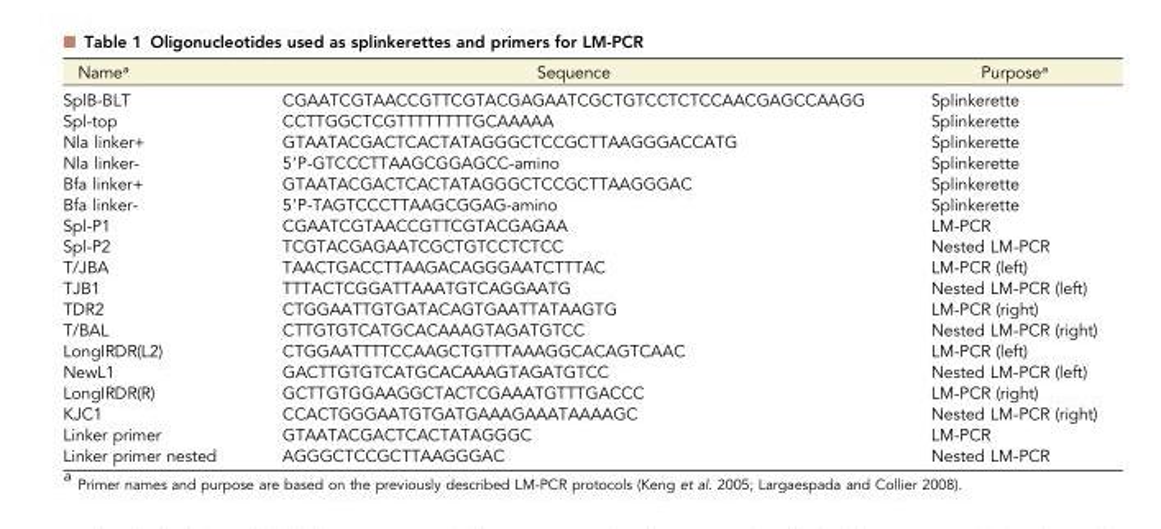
<table><thead><tr><td>Name<sup>a</sup></td><td>Sequence</td><td>Purpose<sup>a</sup></td></tr></thead><tbody><tr><td>SplB-BLT</td><td>CGAATCGTAACCGTTCGTACGAGAATCGCTGTCCTCTCCAACGAGCCAAGG</td><td>Splinkerette</td></tr><tr><td>Spl-top</td><td>CCTTGGCTCGTTTTTTTTGCAAAAA</td><td>Splinkerette</td></tr><tr><td>Nla linker+</td><td>GTAATACGACTCACTATAGGGCTCCGCTTAAGGGACCATG</td><td>Splinkerette</td></tr><tr><td>Nla linker-</td><td>5′P-GTCCCTTAAGCGGAGCC-amino</td><td>Splinkerette</td></tr><tr><td>Bfa linker+</td><td>GTAATACGACTCACTATAGGGCTCCGCTTAAGGGAC</td><td>Splinkerette</td></tr><tr><td>Bfa linker-</td><td>5′P-TAGTCCCTTAAGCGGAG-amino</td><td>Splinkerette</td></tr><tr><td>Spl-P1</td><td>CGAATCGTAACCGTTCGTACGAGAA</td><td>LM-PCR</td></tr><tr><td>Spl-P2</td><td>TCGTACGAGAATCGCTGTCCTCTCC</td><td>Nested LM-PCR</td></tr><tr><td>T/JBA</td><td>TAACTGACCTTAAGACAGGGAATCTTTAC</td><td>LM-PCR (left)</td></tr><tr><td>TJB1</td><td>TTTACTCGGATTAAATGTCAGGAATG</td><td>Nested LM-PCR (left)</td></tr><tr><td>TDR2</td><td>CTGGAATTGTGATACAGTGAATTATAAGTG</td><td>LM-PCR (right)</td></tr><tr><td>T/BAL</td><td>CTTGTGTCATGCACAAAGTAGATGTCC</td><td>Nested LM-PCR (right)</td></tr><tr><td>LongIRDR(L2)</td><td>CTGGAATTTTCCAAGCTGTTTAAAGGCACAGTCAAC</td><td>LM-PCR (left)</td></tr><tr><td>NewL1</td><td>GACTTGTGTCATGCACAAAGTAGATGTCC</td><td>Nested LM-PCR (left)</td></tr><tr><td>LongIRDR(R)</td><td>GCTTGTGGAAGGCTACTCGAAATGTTTGACCC</td><td>LM-PCR (right)</td></tr><tr><td>KJC1</td><td>CCACTGGGAATGTGATGAAAGAAATAAAAGC</td><td>Nested LM-PCR (right)</td></tr><tr><td>Linker primer</td><td>GTAATACGACTCACTATAGGGC</td><td>LM-PCR</td></tr><tr><td>Linker primer nested</td><td>AGGGCTCCGCTTAAGGGAC</td><td>Nested LM-PCR</td></tr></tbody></table>